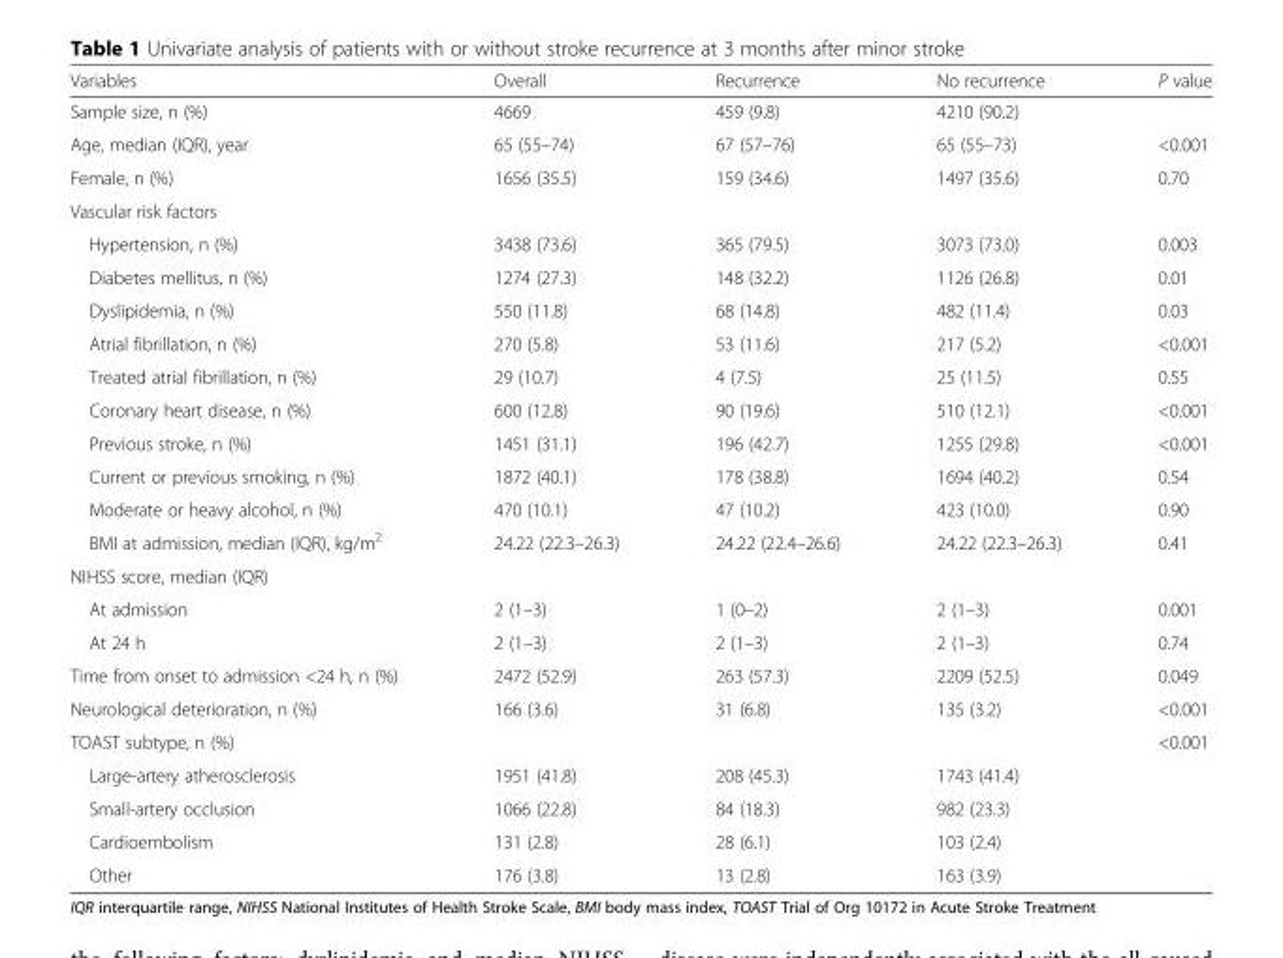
<table><thead><tr><td>Variables</td><td>Overall</td><td>Recurrence</td><td>No recurrence</td><td>P value</td></tr></thead><tbody><tr><td>Sample size, n (%)</td><td>4669</td><td>459 (9.8)</td><td>4210 (90.2)</td><td></td></tr><tr><td>Age, median (IQR), year</td><td>65 (55–74)</td><td>67 (57–76)</td><td>65 (55–73)</td><td>&lt;0.001</td></tr><tr><td>Female, n (%)</td><td>1656 (35.5)</td><td>159 (34.6)</td><td>1497 (35.6)</td><td>0.70</td></tr><tr><td colspan="5">Vascular risk factors</td></tr><tr><td>Hypertension, n (%)</td><td>3438 (73.6)</td><td>365 (79.5)</td><td>3073 (73.0)</td><td>0.003</td></tr><tr><td>Diabetes mellitus, n (%)</td><td>1274 (27.3)</td><td>148 (32.2)</td><td>1126 (26.8)</td><td>0.01</td></tr><tr><td>Dyslipidemia, n (%)</td><td>550 (11.8)</td><td>68 (14.8)</td><td>482 (11.4)</td><td>0.03</td></tr><tr><td>Atrial fibrillation, n (%)</td><td>270 (5.8)</td><td>53 (11.6)</td><td>217 (5.2)</td><td>&lt;0.001</td></tr><tr><td>Treated atrial fibrillation, n (%)</td><td>29 (10.7)</td><td>4 (7.5)</td><td>25 (11.5)</td><td>0.55</td></tr><tr><td>Coronary heart disease, n (%)</td><td>600 (12.8)</td><td>90 (19.6)</td><td>510 (12.1)</td><td>&lt;0.001</td></tr><tr><td>Previous stroke, n (%)</td><td>1451 (31.1)</td><td>196 (42.7)</td><td>1255 (29.8)</td><td>&lt;0.001</td></tr><tr><td>Current or previous smoking, n (%)</td><td>1872 (40.1)</td><td>178 (38.8)</td><td>1694 (40.2)</td><td>0.54</td></tr><tr><td>Moderate or heavy alcohol, n (%)</td><td>470 (10.1)</td><td>47 (10.2)</td><td>423 (10.0)</td><td>0.90</td></tr><tr><td>BMI at admission, median (IQR), kg/m<sup>2</sup></td><td>24.22 (22.3–26.3)</td><td>24.22 (22.4–26.6)</td><td>24.22 (22.3–26.3)</td><td>0.41</td></tr><tr><td colspan="5">NIHSS score, median (IQR)</td></tr><tr><td>At admission</td><td>2 (1–3)</td><td>1 (0–2)</td><td>2 (1–3)</td><td>0.001</td></tr><tr><td>At 24 h</td><td>2 (1–3)</td><td>2 (1–3)</td><td>2 (1–3)</td><td>0.74</td></tr><tr><td>Time from onset to admission &lt;24 h, n (%)</td><td>2472 (52.9)</td><td>263 (57.3)</td><td>2209 (52.5)</td><td>0.049</td></tr><tr><td>Neurological deterioration, n (%)</td><td>166 (3.6)</td><td>31 (6.8)</td><td>135 (3.2)</td><td>&lt;0.001</td></tr><tr><td>TOAST subtype, n (%)</td><td></td><td></td><td></td><td>&lt;0.001</td></tr><tr><td>Large-artery atherosclerosis</td><td>1951 (41.8)</td><td>208 (45.3)</td><td>1743 (41.4)</td><td></td></tr><tr><td>Small-artery occlusion</td><td>1066 (22.8)</td><td>84 (18.3)</td><td>982 (23.3)</td><td></td></tr><tr><td>Cardioembolism</td><td>131 (2.8)</td><td>28 (6.1)</td><td>103 (2.4)</td><td></td></tr><tr><td>Other</td><td>176 (3.8)</td><td>13 (2.8)</td><td>163 (3.9)</td><td></td></tr></tbody></table>